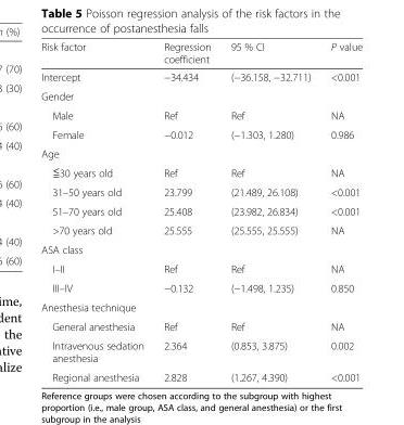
<table><thead><tr><td>Risk factor</td><td>Regression coefficient</td><td>95 % CI</td><td>P value</td></tr></thead><tbody><tr><td>Intercept</td><td>−34.434</td><td>(−36.158, −32.711)</td><td>&lt;0.001</td></tr><tr><td colspan="4">Gender</td></tr><tr><td>Male</td><td>Ref</td><td>Ref</td><td>NA</td></tr><tr><td>Female</td><td>−0.012</td><td>(−1.303, 1.280)</td><td>0.986</td></tr><tr><td colspan="4">Age</td></tr><tr><td>≦30 years old</td><td>Ref</td><td>Ref</td><td>NA</td></tr><tr><td>31–50 years old</td><td>23.799</td><td>(21.489, 26.108)</td><td>&lt;0.001</td></tr><tr><td>51–70 years old</td><td>25.408</td><td>(23.982, 26.834)</td><td>&lt;0.001</td></tr><tr><td>&gt;70 years old</td><td>25.555</td><td>(25.555, 25.555)</td><td>NA</td></tr><tr><td colspan="4">ASA class</td></tr><tr><td>I–II</td><td>Ref</td><td>Ref</td><td>NA</td></tr><tr><td>III–IV</td><td>−0.132</td><td>(−1.498, 1.235)</td><td>0.850</td></tr><tr><td colspan="4">Anesthesia technique</td></tr><tr><td>General anesthesia</td><td>Ref</td><td>Ref</td><td>NA</td></tr><tr><td>Intravenous sedation anesthesia</td><td>2.364</td><td>(0.853, 3.875)</td><td>0.002</td></tr><tr><td>Regional anesthesia</td><td>2.828</td><td>(1.267, 4.390)</td><td>&lt;0.001</td></tr></tbody></table>